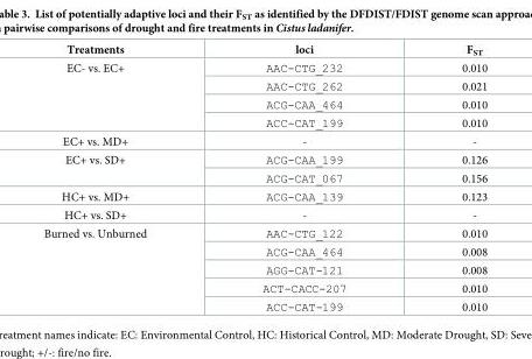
<table><thead><tr><td>Treatments</td><td>loci</td><td>F<sub>ST</sub></td></tr></thead><tbody><tr><td rowspan="4">EC- vs. EC+</td><td>AAC-CTG_232</td><td>0.010</td></tr><tr><td>AAC-CTG_262</td><td>0.021</td></tr><tr><td>ACG-CAA_464</td><td>0.010</td></tr><tr><td>ACC-CAT_199</td><td>0.010</td></tr><tr><td>EC+ vs. MD+</td><td>-</td><td>-</td></tr><tr><td rowspan="2">EC+ vs. SD+</td><td>ACG-CAA_199</td><td>0.126</td></tr><tr><td>ACG-CAT_067</td><td>0.156</td></tr><tr><td>HC+ vs. MD+</td><td>ACG-CAA_139</td><td>0.123</td></tr><tr><td>HC+ vs. SD+</td><td>-</td><td>-</td></tr><tr><td rowspan="5">Burned vs. Unburned</td><td>AAC-CTG_122</td><td>0.010</td></tr><tr><td>ACG-CAA_464</td><td>0.008</td></tr><tr><td>AGG-CAT-121</td><td>0.008</td></tr><tr><td>ACT-CACC-207</td><td>0.010</td></tr><tr><td>ACC-CAT-199</td><td>0.010</td></tr></tbody></table>